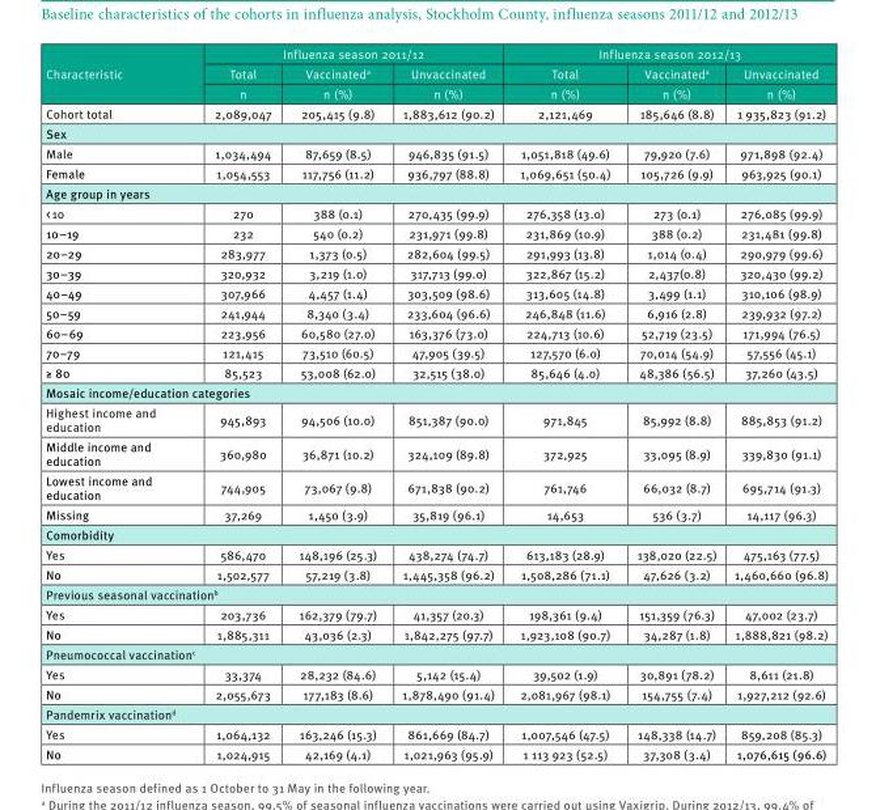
<table><thead><tr><td rowspan="3">Characteristic</td><td colspan="3">Influenza season 2011/12</td><td colspan="3">Influenza season 2012/13</td></tr><tr><td rowspan="2">Total n</td><td rowspan="2">Vaccinated<sup>a</sup> n (%)</td><td rowspan="2">Unvaccinated n (%)</td><td rowspan="2">Total n (%)</td><td rowspan="2">Vaccinated<sup>a</sup> n (%)</td><td rowspan="2">Unvaccinated n (%)</td></tr><tr></tr></thead><tbody><tr><td>Cohort total</td><td>2,089,047</td><td>205,415 (9.8)</td><td>1,883,612 (90.2)</td><td>2,121,469</td><td>185,646 (8.8)</td><td>1 935,823 (91.2)</td></tr><tr><td colspan="7">Sex</td></tr><tr><td>Male</td><td>1,034,494</td><td>87,659 (8.5)</td><td>946,835 (91.5)</td><td>1,051,818 (49.6)</td><td>79,920 (7.6)</td><td>971,898 (92.4)</td></tr><tr><td>Female</td><td>1,054,553</td><td>117,756 (11.2)</td><td>936,797 (88.8)</td><td>1,069,651 (50.4)</td><td>105,726 (9.9)</td><td>963,925 (90.1)</td></tr><tr><td colspan="7">Age group in years</td></tr><tr><td>&lt; 10</td><td>270</td><td>388 (0.1)</td><td>270,435 (99.9)</td><td>276,358 (13.0)</td><td>273 (0.1)</td><td>276,085 (99.9)</td></tr><tr><td>10–19</td><td>232</td><td>540 (0.2)</td><td>231,971 (99.8)</td><td>231,869 (10.9)</td><td>388 (0.2)</td><td>231,481 (99.8)</td></tr><tr><td>20–29</td><td>283,977</td><td>1,373 (0.5)</td><td>282,604 (99.5)</td><td>291,993 (13.8)</td><td>1,014 (0.4)</td><td>290,979 (99.6)</td></tr><tr><td>30–39</td><td>320,932</td><td>3,219 (1.0)</td><td>317,713 (99.0)</td><td>322,867 (15.2)</td><td>2,437(0.8)</td><td>320,430 (99.2)</td></tr><tr><td>40–49</td><td>307,966</td><td>4,457 (1.4)</td><td>303,509 (98.6)</td><td>313,605 (14.8)</td><td>3,499 (1.1)</td><td>310,106 (98.9)</td></tr><tr><td>50–59</td><td>241,944</td><td>8,340 (3.4)</td><td>233,604 (96.6)</td><td>246,848 (11.6)</td><td>6,916 (2.8)</td><td>239,932 (97.2)</td></tr><tr><td>60–69</td><td>223,956</td><td>60,580 (27.0)</td><td>163,376 (73.0)</td><td>224,713 (10.6)</td><td>52,719 (23.5)</td><td>171,994 (76.5)</td></tr><tr><td>70–79</td><td>121,415</td><td>73,510 (60.5)</td><td>47,905 (39.5)</td><td>127,570 (6.0)</td><td>70,014 (54.9)</td><td>57,556 (45.1)</td></tr><tr><td>≥ 80</td><td>85,523</td><td>53,008 (62.0)</td><td>32,515 (38.0)</td><td>85,646 (4.0)</td><td>48,386 (56.5)</td><td>37,260 (43.5)</td></tr><tr><td colspan="7">Mosaic income/education categories</td></tr><tr><td>Highest income and education</td><td>945,893</td><td>94,506 (10.0)</td><td>851,387 (90.0)</td><td>971,845</td><td>85,992 (8.8)</td><td>885,853 (91.2)</td></tr><tr><td>Middle income and education</td><td>360,980</td><td>36,871 (10.2)</td><td>324,109 (89.8)</td><td>372,925</td><td>33,095 (8.9)</td><td>339,830 (91.1)</td></tr><tr><td>Lowest income and education</td><td>744,905</td><td>73,067 (9.8)</td><td>671,838 (90.2)</td><td>761,746</td><td>66,032 (8.7)</td><td>695,714 (91.3)</td></tr><tr><td>Missing</td><td>37,269</td><td>1,450 (3.9)</td><td>35,819 (96.1)</td><td>14,653</td><td>536 (3.7)</td><td>14,117 (96.3)</td></tr><tr><td colspan="7">Comorbidity</td></tr><tr><td>Yes</td><td>586,470</td><td>148,196 (25.3)</td><td>438,274 (74.7)</td><td>613,183 (28.9)</td><td>138,020 (22.5)</td><td>475,163 (77.5)</td></tr><tr><td>No</td><td>1,502,577</td><td>57,219 (3.8)</td><td>1,445,358 (96.2)</td><td>1,508,286 (71.1)</td><td>47,626 (3.2)</td><td>1,460,660 (96.8)</td></tr><tr><td colspan="7">Previous seasonal vaccination<sup>b</sup></td></tr><tr><td>Yes</td><td>203,736</td><td>162,379 (79.7)</td><td>41,357 (20.3)</td><td>198,361 (9.4)</td><td>151,359 (76.3)</td><td>47,002 (23.7)</td></tr><tr><td>No</td><td>1,885,311</td><td>43,036 (2.3)</td><td>1,842,275 (97.7)</td><td>1,923,108 (90.7)</td><td>34,287 (1.8)</td><td>1,888,821 (98.2)</td></tr><tr><td colspan="7">Pneumococcal vaccination<sup>c</sup></td></tr><tr><td>Yes</td><td>33,374</td><td>28,232 (84.6)</td><td>5,142 (15.4)</td><td>39,502 (1.9)</td><td>30,891 (78.2)</td><td>8,611 (21.8)</td></tr><tr><td>No</td><td>2,055,673</td><td>177,183 (8.6)</td><td>1,878,490 (91.4)</td><td>2,081,967 (98.1)</td><td>154,755 (7.4)</td><td>1,927,212 (92.6)</td></tr><tr><td colspan="7">Pandemrix vaccination<sup>d</sup></td></tr><tr><td>Yes</td><td>1,064,132</td><td>163,246 (15.3)</td><td>861,669 (84.7)</td><td>1,007,546 (47.5)</td><td>148,338 (14.7)</td><td>859,208 (85.3)</td></tr><tr><td>No</td><td>1,024,915</td><td>42,169 (4.1)</td><td>1,021,963 (95.9)</td><td>1 113 923 (52.5)</td><td>37,308 (3.4)</td><td>1,076,615 (96.6)</td></tr></tbody></table>